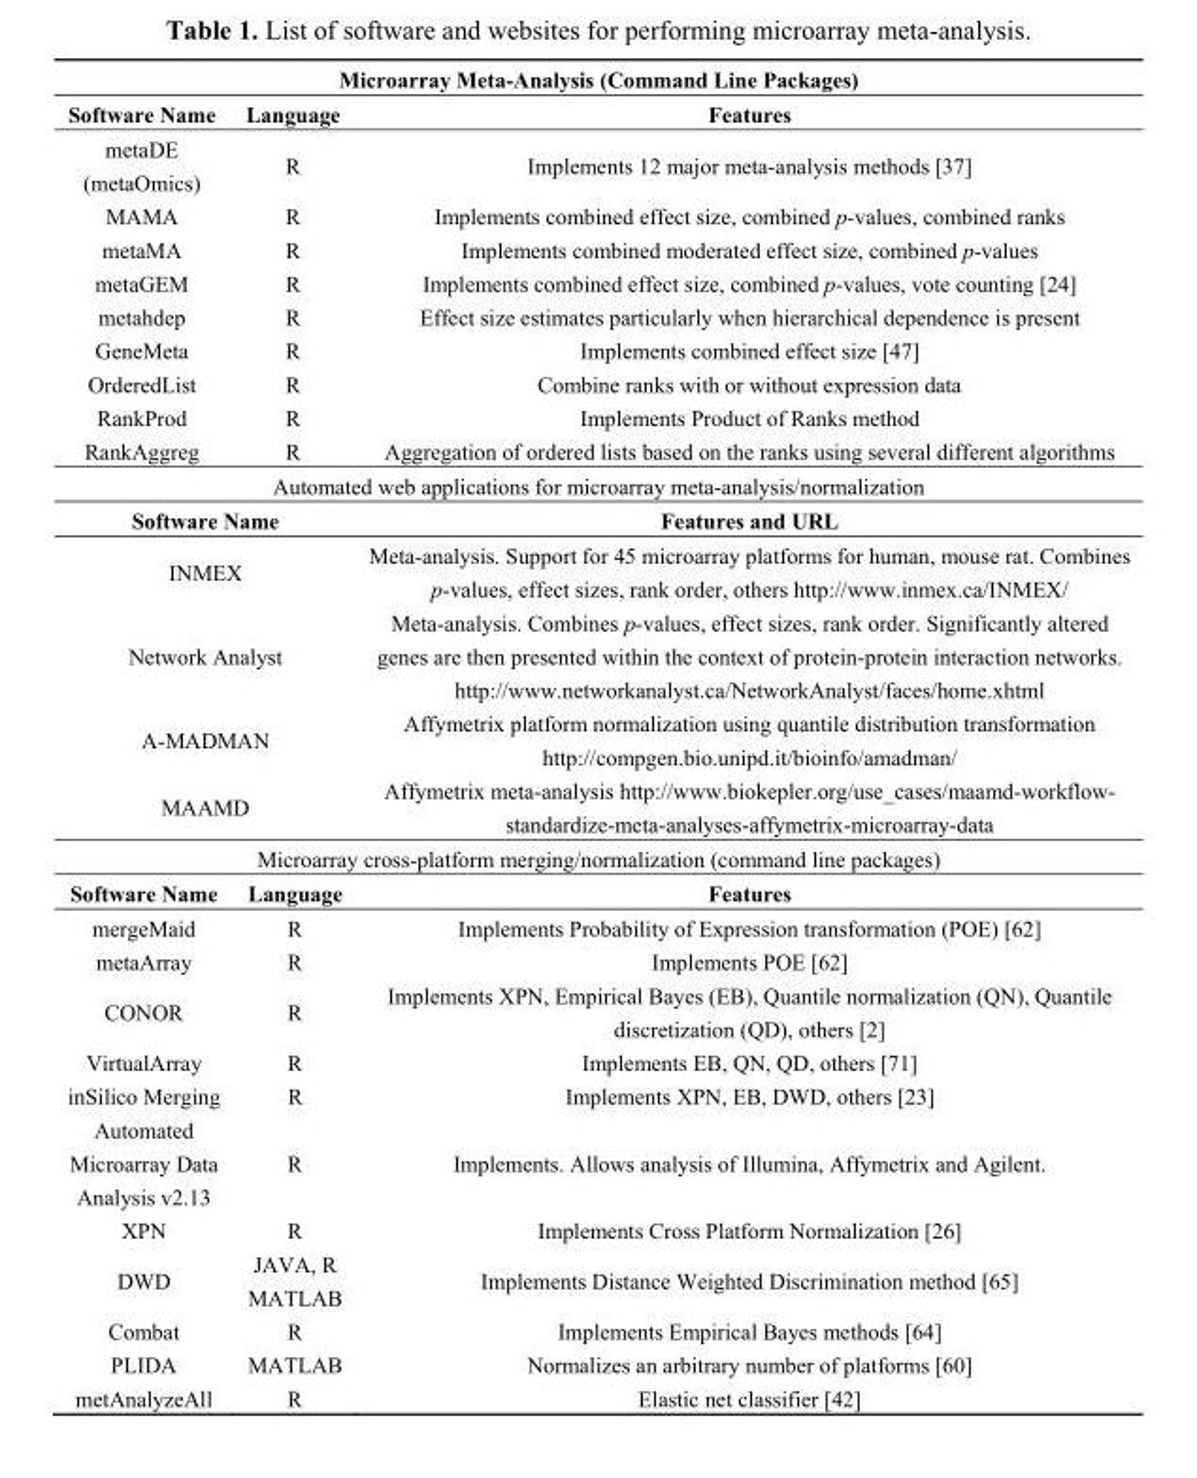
<table><thead><tr><td colspan="3">Microarray Meta-Analysis (Command Line Packages)</td></tr><tr><td>Software Name</td><td>Language</td><td>Features</td></tr></thead><tbody><tr><td>metaDE (metaOmics)</td><td>R</td><td>Implements 12 major meta-analysis methods [37]</td></tr><tr><td>MAMA</td><td>R</td><td>Implements combined effect size, combined p-values, combined ranks</td></tr><tr><td>metaMA</td><td>R</td><td>Implements combined moderated effect size, combined p-values</td></tr><tr><td>metaGEM</td><td>R</td><td>Implements combined effect size, combined p-values, vote counting [24]</td></tr><tr><td>metahdep</td><td>R</td><td>Effect size estimates particularly when hierarchical dependence is present</td></tr><tr><td>GeneMeta</td><td>R</td><td>Implements combined effect size [47]</td></tr><tr><td>OrderedList</td><td>R</td><td>Combine ranks with or without expression data</td></tr><tr><td>RankProd</td><td>R</td><td>Implements Product of Ranks method</td></tr><tr><td>RankAggreg</td><td>R</td><td>Aggregation of ordered lists based on the ranks using several different algorithms</td></tr><tr><td colspan="3">Automated web applications for microarray meta-analysis/normalization</td></tr><tr><td colspan="2">Software Name</td><td>Features and URL</td></tr><tr><td colspan="2">INMEX</td><td>Meta-analysis. Support for 45 microarray platforms for human, mouse rat. Combines p-values, effect sizes, rank order, others http://www.inmex.ca/INMEX/</td></tr><tr><td colspan="2">Network Analyst</td><td>Meta-analysis. Combines p-values, effect sizes, rank order. Significantly altered genes are then presented within the context of protein-protein interaction networks. http://www.networkanalyst.ca/NetworkAnalyst/faces/home.xhtml</td></tr><tr><td colspan="2">A-MADMAN</td><td>Affymetrix platform normalization using quantile distribution transformation http://compgen.bio.unipd.it/bioinfo/amadman/</td></tr><tr><td colspan="2">MAAMD</td><td>Affymetrix meta-analysis http://www.biokepler.org/use_cases/maamd-workflow- standardize-meta-analyses-affymetrix-microarray-data</td></tr><tr><td colspan="3">Microarray cross-platform merging/normalization (command line packages)</td></tr><tr><td>Software Name</td><td>Language</td><td>Features</td></tr><tr><td>mergeMaid</td><td>R</td><td>Implements Probability of Expression transformation (POE) [62]</td></tr><tr><td>metaArray</td><td>R</td><td>Implements POE [62]</td></tr><tr><td>CONOR</td><td>R</td><td>Implements XPN, Empirical Bayes (EB), Quantile normalization (QN), Quantile discretization (QD), others [2]</td></tr><tr><td>VirtualArray</td><td>R</td><td>Implements EB, QN, QD, others [71]</td></tr><tr><td>inSilico Merging</td><td>R</td><td>Implements XPN, EB, DWD, others [23]</td></tr><tr><td>Automated Microarray Data Analysis v2.13</td><td>R</td><td>Implements. Allows analysis of Illumina, Affymetrix and Agilent.</td></tr><tr><td>XPN</td><td>R</td><td>Implements Cross Platform Normalization [26]</td></tr><tr><td>DWD</td><td>JAVA, R MATLAB</td><td>Implements Distance Weighted Discrimination method [65]</td></tr><tr><td>Combat</td><td>R</td><td>Implements Empirical Bayes methods [64]</td></tr><tr><td>PLIDA</td><td>MATLAB</td><td>Normalizes an arbitrary number of platforms [60]</td></tr><tr><td>metAnalyzeAll</td><td>R</td><td>Elastic net classifier [42]</td></tr></tbody></table>